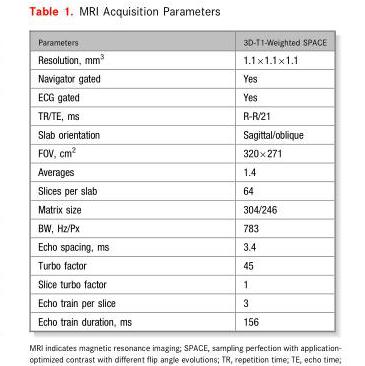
<table><thead><tr><td>Parameters</td><td>3D-T1-Weighted SPACE</td></tr></thead><tbody><tr><td>Resolution, mm<sup>3</sup></td><td>1.1×1.1×1.1</td></tr><tr><td>Navigator gated</td><td>Yes</td></tr><tr><td>ECG gated</td><td>Yes</td></tr><tr><td>TR/TE, ms</td><td>R-R/21</td></tr><tr><td>Slab orientation</td><td>Sagittal/oblique</td></tr><tr><td>FOV, cm<sup>2</sup></td><td>320×271</td></tr><tr><td>Averages</td><td>1.4</td></tr><tr><td>Slices per slab</td><td>64</td></tr><tr><td>Matrix size</td><td>304/246</td></tr><tr><td>BW, Hz/Px</td><td>783</td></tr><tr><td>Echo spacing, ms</td><td>3.4</td></tr><tr><td>Turbo factor</td><td>45</td></tr><tr><td>Slice turbo factor</td><td>1</td></tr><tr><td>Echo train per slice</td><td>3</td></tr><tr><td>Echo train duration, ms</td><td>156</td></tr></tbody></table>